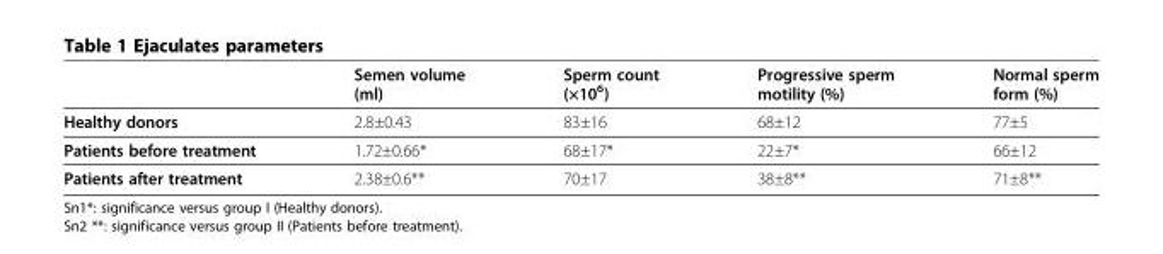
<table><thead><tr><td></td><td>Semen volume (ml)</td><td>Sperm count (×10<sup>6</sup>)</td><td>Progressive sperm motility (%)</td><td>Normal sperm form (%)</td></tr></thead><tbody><tr><td>Healthy donors</td><td>2.8±0.43</td><td>83±16</td><td>68±12</td><td>77±5</td></tr><tr><td>Patients before treatment</td><td>1.72±0.66*</td><td>68±17*</td><td>22±7*</td><td>66±12</td></tr><tr><td>Patients after treatment</td><td>2.38±0.6**</td><td>70±17</td><td>38±8**</td><td>71±8**</td></tr></tbody></table>